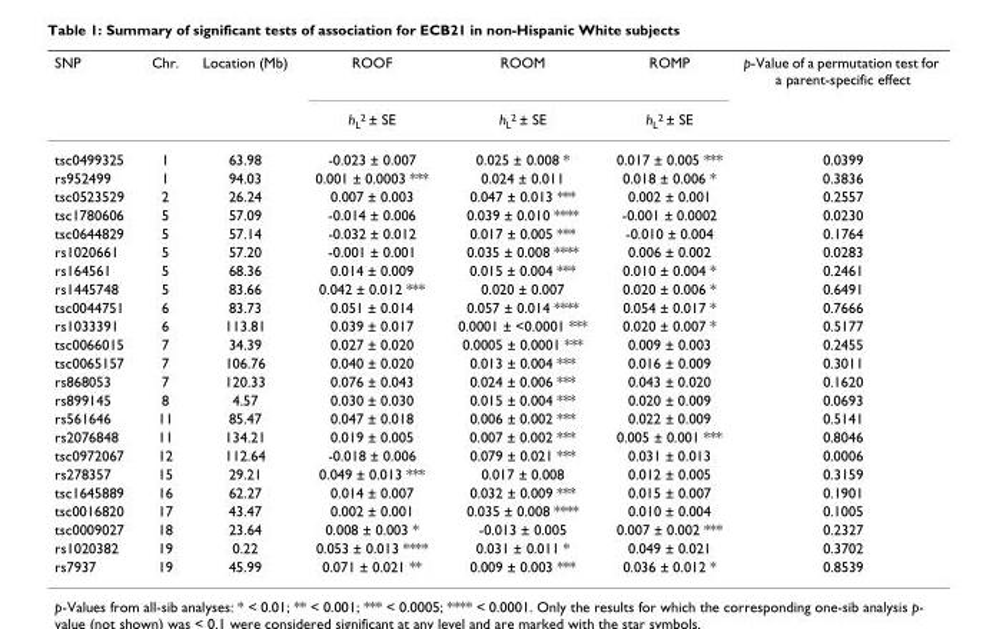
<table><thead><tr><td rowspan="2">SNP</td><td rowspan="2">Chr.</td><td rowspan="2">Location (Mb)</td><td rowspan="2">ROOF hL2 ± SE</td><td rowspan="2">ROOM hL2 ± SE</td><td rowspan="2">ROMP hL2 ± SE</td><td rowspan="2">p-Value of a permutation test for a parent-specific effect</td></tr><tr></tr></thead><tbody><tr><td>tsc0499325</td><td>1</td><td>63.98</td><td>-0.023 ± 0.007</td><td>0.025 ± 0.008 *</td><td>0.017 ± 0.005 ***</td><td>0.0399</td></tr><tr><td>rs952499</td><td>1</td><td>94.03</td><td>0.001 ± 0.0003 ***</td><td>0.024 ± 0.011</td><td>0.018 ± 0.006 *</td><td>0.3836</td></tr><tr><td>tsc0523529</td><td>2</td><td>26.24</td><td>0.007 ± 0.003</td><td>0.047 ± 0.013 ***</td><td>0.002 ± 0.001</td><td>0.2557</td></tr><tr><td>tsc1780606</td><td>5</td><td>57.09</td><td>-0.014 ± 0.006</td><td>0.039 ± 0.010 ****</td><td>-0.001 ± 0.0002</td><td>0.0230</td></tr><tr><td>tsc0644829</td><td>5</td><td>57.14</td><td>-0.032 ± 0.012</td><td>0.017 ± 0.005 ***</td><td>-0.010 ± 0.004</td><td>0.1764</td></tr><tr><td>rs1020661</td><td>5</td><td>57.20</td><td>-0.001 ± 0.001</td><td>0.035 ± 0.008 ****</td><td>0.006 ± 0.002</td><td>0.0283</td></tr><tr><td>rs164561</td><td>5</td><td>68.36</td><td>0.014 ± 0.009</td><td>0.015 ± 0.004 ***</td><td>0.010 ± 0.004 *</td><td>0.2461</td></tr><tr><td>rs1445748</td><td>5</td><td>83.66</td><td>0.042 ± 0.012 ***</td><td>0.020 ± 0.007</td><td>0.020 ± 0.006 *</td><td>0.6491</td></tr><tr><td>tsc0044751</td><td>6</td><td>83.73</td><td>0.051 ± 0.014</td><td>0.057 ± 0.014 ****</td><td>0.054 ± 0.017 *</td><td>0.7666</td></tr><tr><td>rs1033391</td><td>6</td><td>113.81</td><td>0.039 ± 0.017</td><td>0.0001 ± &lt;0.0001 ***</td><td>0.020 ± 0.007 *</td><td>0.5177</td></tr><tr><td>tsc0066015</td><td>7</td><td>34.39</td><td>0.027 ± 0.020</td><td>0.0005 ± 0.0001 ***</td><td>0.009 ± 0.003</td><td>0.2455</td></tr><tr><td>tsc0065157</td><td>7</td><td>106.76</td><td>0.040 ± 0.020</td><td>0.013 ± 0.004 ***</td><td>0.016 ± 0.009</td><td>0.3011</td></tr><tr><td>rs868053</td><td>7</td><td>120.33</td><td>0.076 ± 0.043</td><td>0.024 ± 0.006 ***</td><td>0.043 ± 0.020</td><td>0.1620</td></tr><tr><td>rs899145</td><td>8</td><td>4.57</td><td>0.030 ± 0.030</td><td>0.015 ± 0.004 ***</td><td>0.020 ± 0.009</td><td>0.0693</td></tr><tr><td>rs561646</td><td>11</td><td>85.47</td><td>0.047 ± 0.018</td><td>0.006 ± 0.002 ***</td><td>0.022 ± 0.009</td><td>0.5141</td></tr><tr><td>rs2076848</td><td>11</td><td>134.21</td><td>0.019 ± 0.005</td><td>0.007 ± 0.002 ***</td><td>0.005 ± 0.001 ***</td><td>0.8046</td></tr><tr><td>tsc0972067</td><td>12</td><td>112.64</td><td>-0.018 ± 0.006</td><td>0.079 ± 0.021 ***</td><td>0.031 ± 0.013</td><td>0.0006</td></tr><tr><td>rs278357</td><td>15</td><td>29.21</td><td>0.049 ± 0.013 ***</td><td>0.017 ± 0.008</td><td>0.012 ± 0.005</td><td>0.3159</td></tr><tr><td>tsc1645889</td><td>16</td><td>62.27</td><td>0.014 ± 0.007</td><td>0.032 ± 0.009 ***</td><td>0.015 ± 0.007</td><td>0.1901</td></tr><tr><td>tsc0016820</td><td>17</td><td>43.47</td><td>0.002 ± 0.001</td><td>0.035 ± 0.008 ****</td><td>0.010 ± 0.004</td><td>0.1005</td></tr><tr><td>tsc0009027</td><td>18</td><td>23.64</td><td>0.008 ± 0.003 *</td><td>-0.013 ± 0.005</td><td>0.007 ± 0.002 ***</td><td>0.2327</td></tr><tr><td>rs1020382</td><td>19</td><td>0.22</td><td>0.053 ± 0.013 ****</td><td>0.031 ± 0.011 *</td><td>0.049 ± 0.021</td><td>0.3702</td></tr><tr><td>rs7937</td><td>19</td><td>45.99</td><td>0.071 ± 0.021 **</td><td>0.009 ± 0.003 ***</td><td>0.036 ± 0.012 *</td><td>0.8539</td></tr></tbody></table>